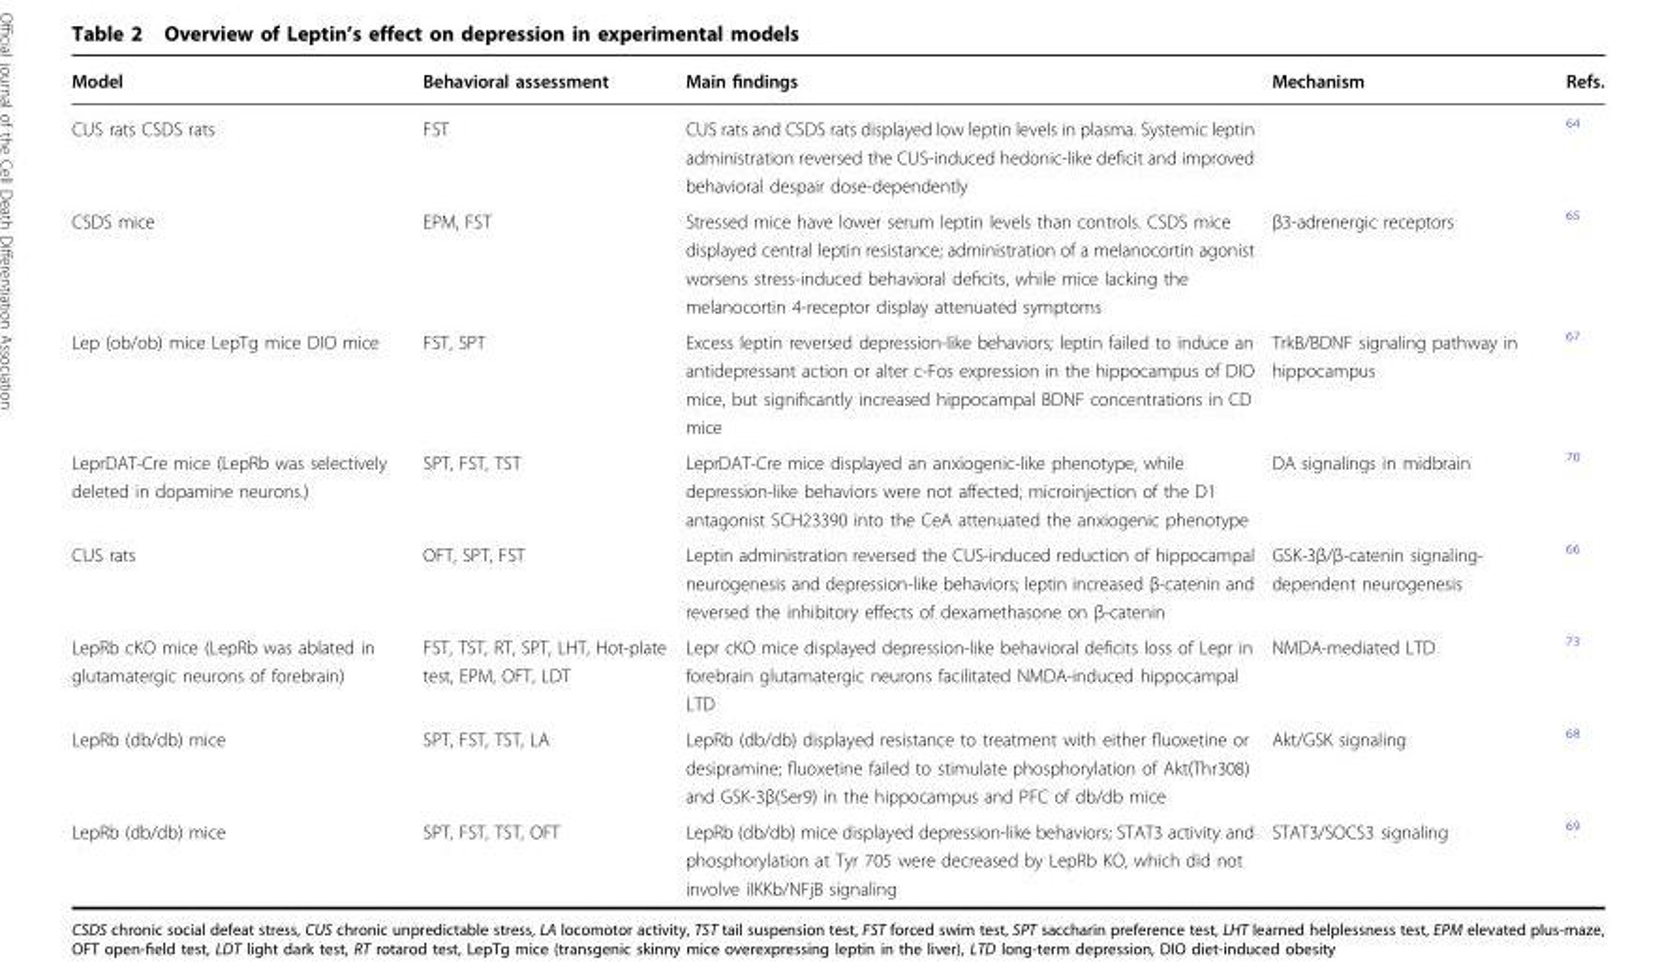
<table><thead><tr><td>Model</td><td>Behavioral assessment</td><td>Main findings</td><td>Mechanism</td><td>Refs.</td></tr></thead><tbody><tr><td>CUS rats CSDS rats</td><td>FST</td><td>CUS rats and CSDS rats displayed low leptin levels in plasma. Systemic leptin administration reversed the CUS-induced hedonic-like deficit and improved behavioral despair dose-dependently</td><td></td><td><sup>64</sup></td></tr><tr><td>CSDS mice</td><td>EPM, FST</td><td>Stressed mice have lower serum leptin levels than controls. CSDS mice displayed central leptin resistance; administration of a melanocortin agonist worsens stress-induced behavioral deficits, while mice lacking the melanocortin 4-receptor display attenuated symptoms</td><td>β3-adrenergic receptors</td><td><sup>65</sup></td></tr><tr><td>Lep (ob/ob) mice LepTg mice DIO mice</td><td>FST, SPT</td><td>Excess leptin reversed depression-like behaviors; leptin failed to induce an antidepressant action or alter c-Fos expression in the hippocampus of DIO mice, but significantly increased hippocampal BDNF concentrations in CD mice</td><td>TrkB/BDNF signaling pathway in hippocampus</td><td><sup>67</sup></td></tr><tr><td>LeprDAT-Cre mice (LepRb was selectively deleted in dopamine neurons.)</td><td>SPT, FST, TST</td><td>LeprDAT-Cre mice displayed an anxiogenic-like phenotype, while depression-like behaviors were not affected; microinjection of the D1 antagonist SCH23390 into the CeA attenuated the anxiogenic phenotype</td><td>DA signalings in midbrain</td><td><sup>70</sup></td></tr><tr><td>CUS rats</td><td>OFT, SPT, FST</td><td>Leptin administration reversed the CUS-induced reduction of hippocampal neurogenesis and depression-like behaviors; leptin increased β-catenin and reversed the inhibitory effects of dexamethasone on β-catenin</td><td>GSK-3β/β-catenin signaling- dependent neurogenesis</td><td><sup>66</sup></td></tr><tr><td>LepRb cKO mice (LepRb was ablated in glutamatergic neurons of forebrain)</td><td>FST, TST, RT, SPT, LHT, Hot-plate test, EPM, OFT, LDT</td><td>Lepr cKO mice displayed depression-like behavioral deficits loss of Lepr in forebrain glutamatergic neurons facilitated NMDA-induced hippocampal LTD</td><td>NMDA-mediated LTD</td><td><sup>73</sup></td></tr><tr><td>LepRb (db/db) mice</td><td>SPT, FST, TST, LA</td><td>LepRb (db/db) displayed resistance to treatment with either fluoxetine or desipramine; fluoxetine failed to stimulate phosphorylation of Akt(Thr308) and GSK-3β(Ser9) in the hippocampus and PFC of db/db mice</td><td>Akt/GSK signaling</td><td><sup>68</sup></td></tr><tr><td>LepRb (db/db) mice</td><td>SPT, FST, TST, OFT</td><td>LepRb (db/db) mice displayed depression-like behaviors; STAT3 activity and phosphorylation at Tyr 705 were decreased by LepRb KO, which did not involve iIKKb/NFjB signaling</td><td>STAT3/SOCS3 signaling</td><td><sup>69</sup></td></tr></tbody></table>